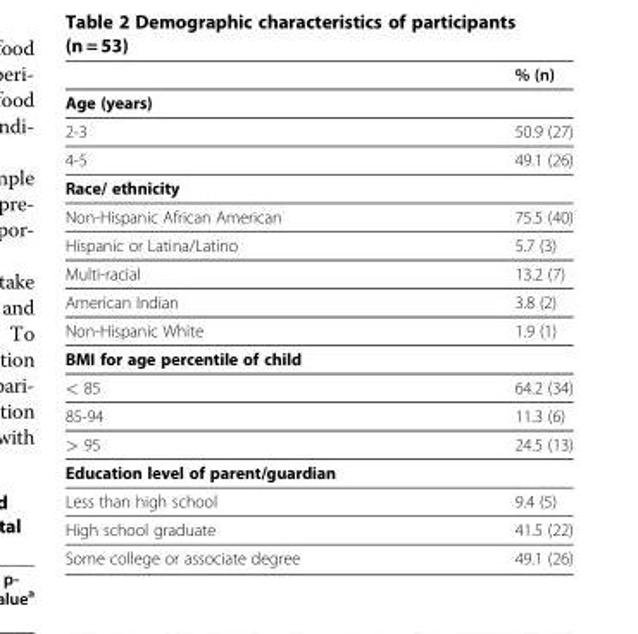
<table><thead><tr><td></td><td>% (n)</td></tr></thead><tbody><tr><td colspan="2">Age (years)</td></tr><tr><td>2-3</td><td>50.9 (27)</td></tr><tr><td>4-5</td><td>49.1 (26)</td></tr><tr><td colspan="2">Race/ ethnicity</td></tr><tr><td>Non-Hispanic African American</td><td>75.5 (40)</td></tr><tr><td>Hispanic or Latina/Latino</td><td>5.7 (3)</td></tr><tr><td>Multi-racial</td><td>13.2 (7)</td></tr><tr><td>American Indian</td><td>3.8 (2)</td></tr><tr><td>Non-Hispanic White</td><td>1.9 (1)</td></tr><tr><td colspan="2">BMI for age percentile of child</td></tr><tr><td>&lt; 85</td><td>64.2 (34)</td></tr><tr><td>85-94</td><td>11.3 (6)</td></tr><tr><td>&gt; 95</td><td>24.5 (13)</td></tr><tr><td colspan="2">Education level of parent/guardian</td></tr><tr><td>Less than high school</td><td>9.4 (5)</td></tr><tr><td>High school graduate</td><td>41.5 (22)</td></tr><tr><td>Some college or associate degree</td><td>49.1 (26)</td></tr></tbody></table>